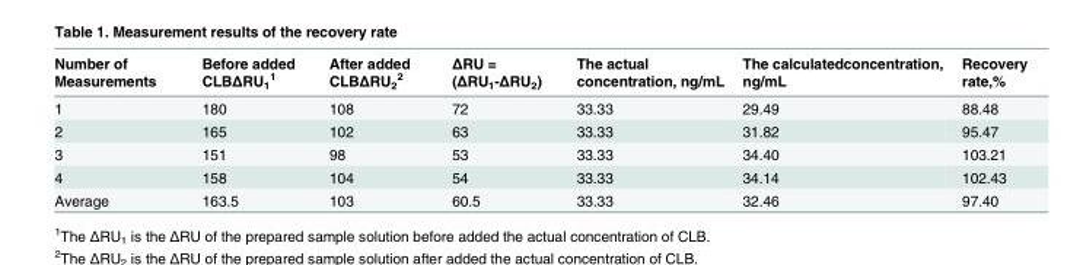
<table><thead><tr><td>Number of Measurements</td><td>Before added CLBΔRU<sub>1</sub> <sup>1</sup></td><td>After added CLBΔRU<sub>2</sub> <sup>2</sup></td><td>ΔRU = (ΔRU<sub>1</sub>-ΔRU<sub>2</sub>)</td><td>The actual concentration, ng/mL</td><td>The calculatedconcentration, ng/mL</td><td>Recovery rate,%</td></tr></thead><tbody><tr><td>1</td><td>180</td><td>108</td><td>72</td><td>33.33</td><td>29.49</td><td>88.48</td></tr><tr><td>2</td><td>165</td><td>102</td><td>63</td><td>33.33</td><td>31.82</td><td>95.47</td></tr><tr><td>3</td><td>151</td><td>98</td><td>53</td><td>33.33</td><td>34.40</td><td>103.21</td></tr><tr><td>4</td><td>158</td><td>104</td><td>54</td><td>33.33</td><td>34.14</td><td>102.43</td></tr><tr><td>Average</td><td>163.5</td><td>103</td><td>60.5</td><td>33.33</td><td>32.46</td><td>97.40</td></tr></tbody></table>